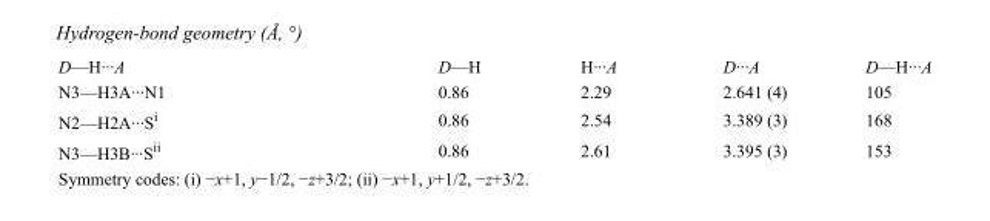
<table><tbody><tr><td>D—H···A</td><td>D—H</td><td>H···A</td><td>D···A</td><td>D—H···A</td></tr><tr><td>N3—H3A···N1</td><td>0.86</td><td>2.29</td><td>2.641 (4)</td><td>105</td></tr><tr><td>N2—H2A···S<sup>i</sup></td><td>0.86</td><td>2.54</td><td>3.389 (3)</td><td>168</td></tr><tr><td>N3—H3B···S<sup>ii</sup></td><td>0.86</td><td>2.61</td><td>3.395 (3)</td><td>153</td></tr></tbody></table>